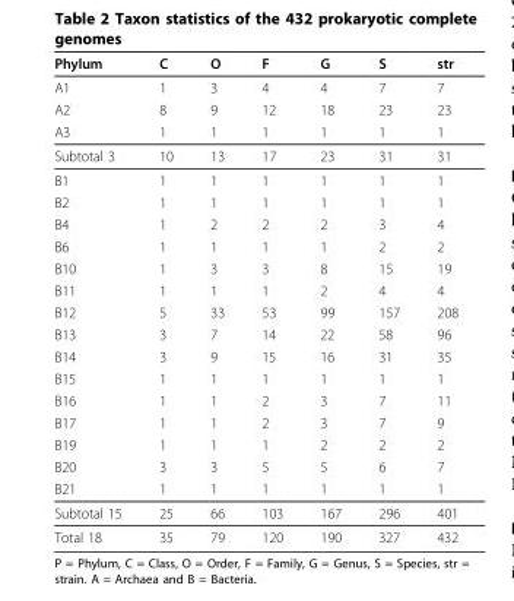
<table><thead><tr><td>Phylum</td><td>C</td><td>O</td><td>F</td><td>G</td><td>S</td><td>str</td></tr></thead><tbody><tr><td>A1</td><td>1</td><td>3</td><td>4</td><td>4</td><td>7</td><td>7</td></tr><tr><td>A2</td><td>8</td><td>9</td><td>12</td><td>18</td><td>23</td><td>23</td></tr><tr><td>A3</td><td>1</td><td>1</td><td>1</td><td>1</td><td>1</td><td>1</td></tr><tr><td>Subtotal 3</td><td>10</td><td>13</td><td>17</td><td>23</td><td>31</td><td>31</td></tr><tr><td>B1</td><td>1</td><td>1</td><td>1</td><td>1</td><td>1</td><td>1</td></tr><tr><td>B2</td><td>1</td><td>1</td><td>1</td><td>1</td><td>1</td><td>1</td></tr><tr><td>B4</td><td>1</td><td>2</td><td>2</td><td>2</td><td>3</td><td>4</td></tr><tr><td>B6</td><td>1</td><td>1</td><td>1</td><td>1</td><td>2</td><td>2</td></tr><tr><td>B10</td><td>1</td><td>3</td><td>3</td><td>8</td><td>15</td><td>19</td></tr><tr><td>B11</td><td>1</td><td>1</td><td>1</td><td>2</td><td>4</td><td>4</td></tr><tr><td>B12</td><td>5</td><td>33</td><td>53</td><td>99</td><td>157</td><td>208</td></tr><tr><td>B13</td><td>3</td><td>7</td><td>14</td><td>22</td><td>58</td><td>96</td></tr><tr><td>B14</td><td>3</td><td>9</td><td>15</td><td>16</td><td>31</td><td>35</td></tr><tr><td>B15</td><td>1</td><td>1</td><td>1</td><td>1</td><td>1</td><td>1</td></tr><tr><td>B16</td><td>1</td><td>1</td><td>2</td><td>3</td><td>7</td><td>11</td></tr><tr><td>B17</td><td>1</td><td>1</td><td>2</td><td>3</td><td>7</td><td>9</td></tr><tr><td>B19</td><td>1</td><td>1</td><td>1</td><td>2</td><td>2</td><td>2</td></tr><tr><td>B20</td><td>3</td><td>3</td><td>5</td><td>5</td><td>6</td><td>7</td></tr><tr><td>B21</td><td>1</td><td>1</td><td>1</td><td>1</td><td>1</td><td>1</td></tr><tr><td>Subtotal 15</td><td>25</td><td>66</td><td>103</td><td>167</td><td>296</td><td>401</td></tr><tr><td>Total 18</td><td>35</td><td>79</td><td>120</td><td>190</td><td>327</td><td>432</td></tr></tbody></table>